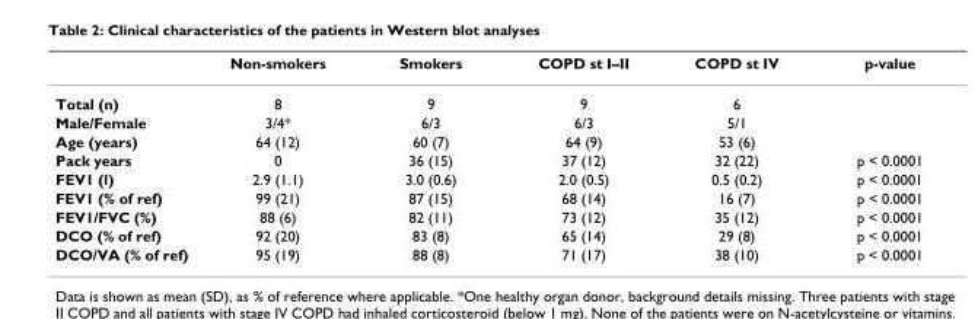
<table><thead><tr><td></td><td>Non-smokers</td><td>Smokers</td><td>COPD st I–II</td><td>COPD st IV</td><td>p-value</td></tr></thead><tbody><tr><td>Total (n)</td><td>8</td><td>9</td><td>9</td><td>6</td><td></td></tr><tr><td>Male/Female</td><td>3/4*</td><td>6/3</td><td>6/3</td><td>5/1</td><td></td></tr><tr><td>Age (years)</td><td>64 (12)</td><td>60 (7)</td><td>64 (9)</td><td>53 (6)</td><td></td></tr><tr><td>Pack years</td><td>0</td><td>36 (15)</td><td>37 (12)</td><td>32 (22)</td><td>p &lt; 0.0001</td></tr><tr><td>FEV1 (l)</td><td>2.9 (1.1)</td><td>3.0 (0.6)</td><td>2.0 (0.5)</td><td>0.5 (0.2)</td><td>p &lt; 0.0001</td></tr><tr><td>FEV1 (% of ref)</td><td>99 (21)</td><td>87 (15)</td><td>68 (14)</td><td>16 (7)</td><td>p &lt; 0.0001</td></tr><tr><td>FEV1/FVC (%)</td><td>88 (6)</td><td>82 (11)</td><td>73 (12)</td><td>35 (12)</td><td>p &lt; 0.0001</td></tr><tr><td>DCO (% of ref)</td><td>92 (20)</td><td>83 (8)</td><td>65 (14)</td><td>29 (8)</td><td>p &lt; 0.0001</td></tr><tr><td>DCO/VA (% of ref)</td><td>95 (19)</td><td>88 (8)</td><td>71 (17)</td><td>38 (10)</td><td>p &lt; 0.0001</td></tr></tbody></table>